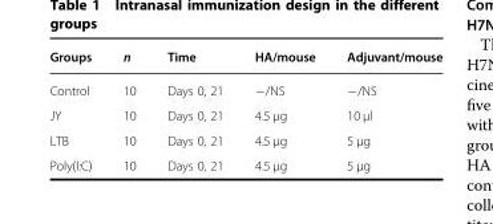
<table><thead><tr><td>Groups</td><td>n</td><td>Time</td><td>HA/mouse</td><td>Adjuvant/mouse</td></tr></thead><tbody><tr><td>Control</td><td>10</td><td>Days 0, 21</td><td>−/NS</td><td>−/NS</td></tr><tr><td>JY</td><td>10</td><td>Days 0, 21</td><td>4.5 μg</td><td>10 μl</td></tr><tr><td>LTB</td><td>10</td><td>Days 0, 21</td><td>4.5 μg</td><td>5 μg</td></tr><tr><td>Poly(I:C)</td><td>10</td><td>Days 0, 21</td><td>4.5 μg</td><td>5 μg</td></tr></tbody></table>